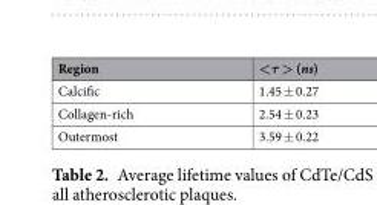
<table><thead><tr><td>Region</td><td>&lt;τ &gt; (ns)</td></tr></thead><tbody><tr><td>Calcific</td><td>1.45 ± 0.27</td></tr><tr><td>Collagen-rich</td><td>2.54 ± 0.23</td></tr><tr><td>Outermost</td><td>3.59 ± 0.22</td></tr></tbody></table>